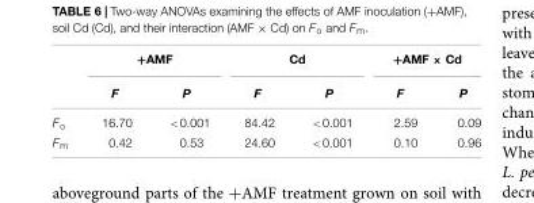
<table><thead><tr><td rowspan="2"></td><td colspan="2">+AMF</td><td colspan="2">Cd</td><td colspan="2">+AMF × Cd</td></tr><tr><td>F</td><td>P</td><td>F</td><td>P</td><td>F</td><td>P</td></tr></thead><tbody><tr><td>F<sub>o</sub></td><td>16.70</td><td>&lt;0.001</td><td>84.42</td><td>&lt;0.001</td><td>2.59</td><td>0.09</td></tr><tr><td>F<sub>m</sub></td><td>0.42</td><td>0.53</td><td>24.60</td><td>&lt;0.001</td><td>0.10</td><td>0.96</td></tr></tbody></table>